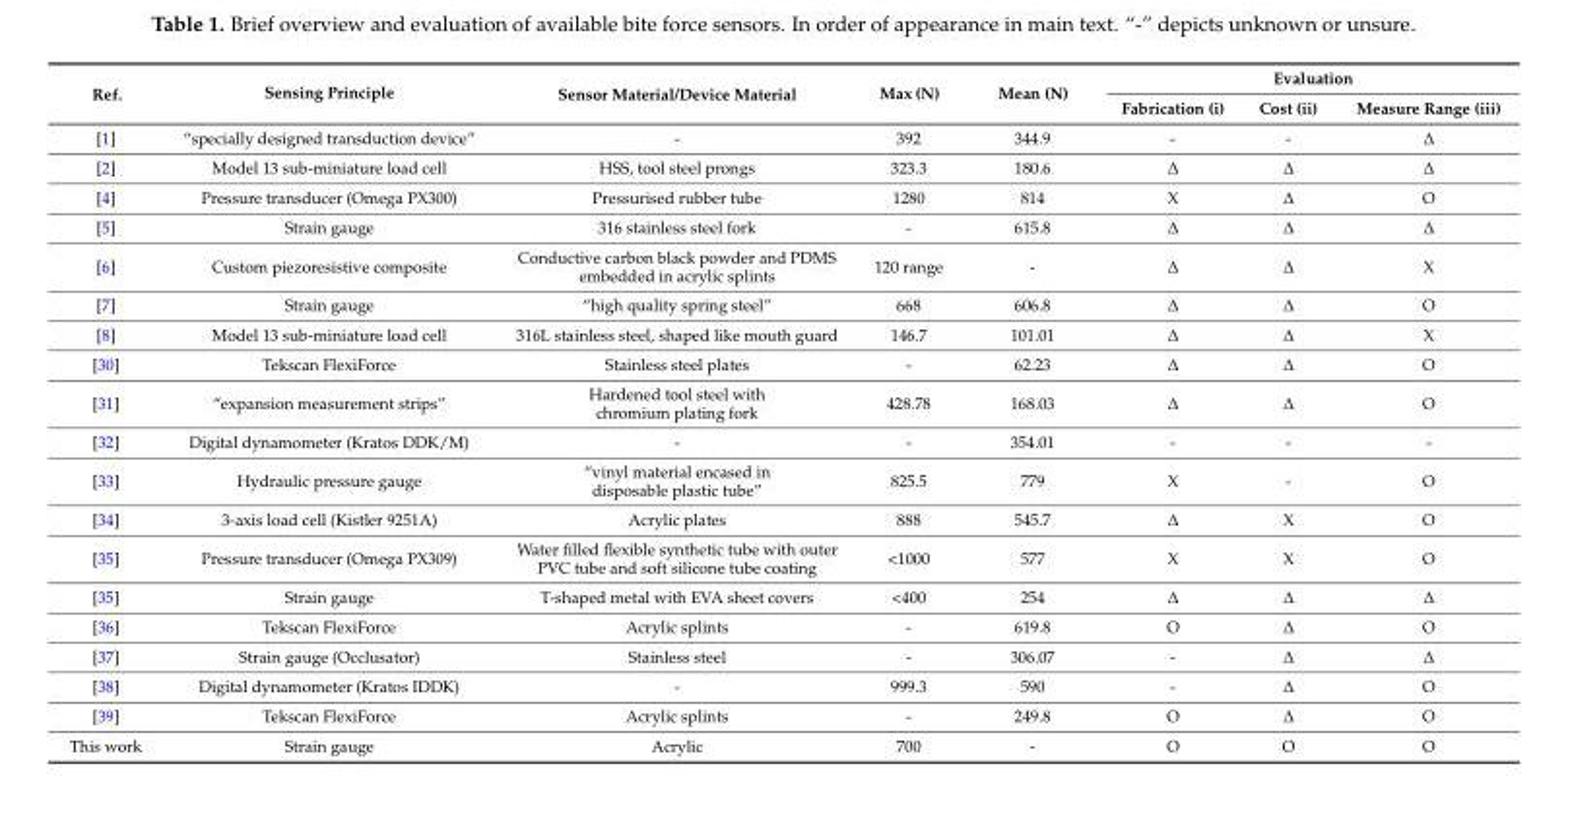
<table><thead><tr><td rowspan="2">Ref.</td><td rowspan="2">Sensing Principle</td><td rowspan="2">Sensor Material/Device Material</td><td rowspan="2">Max (N)</td><td rowspan="2">Mean (N)</td><td colspan="3">Evaluation</td></tr><tr><td>Fabrication (i)</td><td>Cost (ii)</td><td>Measure Range (iii)</td></tr></thead><tbody><tr><td>[1]</td><td>“specially designed transduction device”</td><td>-</td><td>392</td><td>344.9</td><td>-</td><td>-</td><td>∆</td></tr><tr><td>[2]</td><td>Model 13 sub-miniature load cell</td><td>HSS, tool steel prongs</td><td>323.3</td><td>180.6</td><td>∆</td><td>∆</td><td>∆</td></tr><tr><td>[4]</td><td>Pressure transducer (Omega PX300)</td><td>Pressurised rubber tube</td><td>1280</td><td>814</td><td>X</td><td>∆</td><td>O</td></tr><tr><td>[5]</td><td>Strain gauge</td><td>316 stainless steel fork</td><td>-</td><td>615.8</td><td>∆</td><td>∆</td><td>∆</td></tr><tr><td>[6]</td><td>Custom piezoresistive composite</td><td>Conductive carbon black powder and PDMS embedded in acrylic splints</td><td>120 range</td><td>-</td><td>∆</td><td>∆</td><td>X</td></tr><tr><td>[7]</td><td>Strain gauge</td><td>“high quality spring steel”</td><td>668</td><td>606.8</td><td>∆</td><td>∆</td><td>O</td></tr><tr><td>[8]</td><td>Model 13 sub-miniature load cell</td><td>316L stainless steel, shaped like mouth guard</td><td>146.7</td><td>101.01</td><td>∆</td><td>∆</td><td>X</td></tr><tr><td>[30]</td><td>Tekscan FlexiForce</td><td>Stainless steel plates</td><td>-</td><td>62.23</td><td>∆</td><td>∆</td><td>O</td></tr><tr><td>[31]</td><td>“expansion measurement strips”</td><td>Hardened tool steel with chromium plating fork</td><td>428.78</td><td>168.03</td><td>∆</td><td>∆</td><td>O</td></tr><tr><td>[32]</td><td>Digital dynamometer (Kratos DDK/M)</td><td>-</td><td>-</td><td>354.01</td><td>-</td><td>-</td><td>-</td></tr><tr><td>[33]</td><td>Hydraulic pressure gauge</td><td>“vinyl material encased in disposable plastic tube”</td><td>825.5</td><td>779</td><td>X</td><td>-</td><td>O</td></tr><tr><td>[34]</td><td>3-axis load cell (Kistler 9251A)</td><td>Acrylic plates</td><td>888</td><td>545.7</td><td>∆</td><td>X</td><td>O</td></tr><tr><td>[35]</td><td>Pressure transducer (Omega PX309)</td><td>Water filled flexible synthetic tube with outer PVC tube and soft silicone tube coating</td><td>&lt;1000</td><td>577</td><td>X</td><td>X</td><td>O</td></tr><tr><td>[35]</td><td>Strain gauge</td><td>T-shaped metal with EVA sheet covers</td><td>&lt;400</td><td>254</td><td>∆</td><td>∆</td><td>∆</td></tr><tr><td>[36]</td><td>Tekscan FlexiForce</td><td>Acrylic splints</td><td>-</td><td>619.8</td><td>O</td><td>∆</td><td>O</td></tr><tr><td>[37]</td><td>Strain gauge (Occlusator)</td><td>Stainless steel</td><td>-</td><td>306.07</td><td>-</td><td>∆</td><td>∆</td></tr><tr><td>[38]</td><td>Digital dynamometer (Kratos IDDK)</td><td>-</td><td>999.3</td><td>590</td><td>-</td><td>∆</td><td>O</td></tr><tr><td>[39]</td><td>Tekscan FlexiForce</td><td>Acrylic splints</td><td>-</td><td>249.8</td><td>O</td><td>∆</td><td>O</td></tr><tr><td>This work</td><td>Strain gauge</td><td>Acrylic</td><td>700</td><td>-</td><td>O</td><td>O</td><td>O</td></tr></tbody></table>